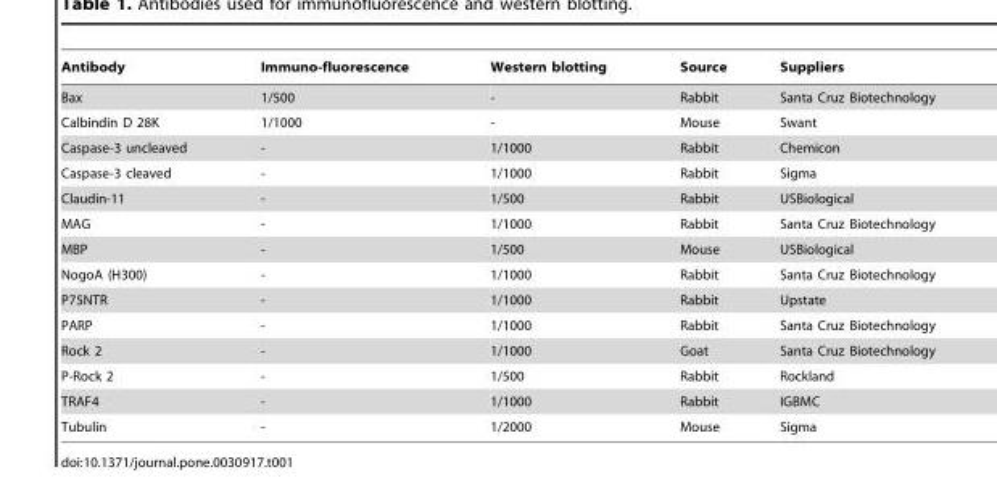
<table><thead><tr><td>Antibody</td><td>Immuno-fluorescence</td><td>Western blotting</td><td>Source</td><td>Suppliers</td></tr></thead><tbody><tr><td>Bax</td><td>1/500</td><td>-</td><td>Rabbit</td><td>Santa Cruz Biotechnology</td></tr><tr><td>Calbindin D 28K</td><td>1/1000</td><td>-</td><td>Mouse</td><td>Swant</td></tr><tr><td>Caspase-3 uncleaved</td><td>-</td><td>1/1000</td><td>Rabbit</td><td>Chemicon</td></tr><tr><td>Caspase-3 cleaved</td><td>-</td><td>1/1000</td><td>Rabbit</td><td>Sigma</td></tr><tr><td>Claudin-11</td><td>-</td><td>1/500</td><td>Rabbit</td><td>USBiological</td></tr><tr><td>MAG</td><td>-</td><td>1/1000</td><td>Rabbit</td><td>Santa Cruz Biotechnology</td></tr><tr><td>MBP</td><td>-</td><td>1/500</td><td>Mouse</td><td>USBiological</td></tr><tr><td>NogoA (H300)</td><td>-</td><td>1/1000</td><td>Rabbit</td><td>Santa Cruz Biotechnology</td></tr><tr><td>P75NTR</td><td>-</td><td>1/1000</td><td>Rabbit</td><td>Upstate</td></tr><tr><td>PARP</td><td>-</td><td>1/1000</td><td>Rabbit</td><td>Santa Cruz Biotechnology</td></tr><tr><td>Rock 2</td><td>-</td><td>1/1000</td><td>Goat</td><td>Santa Cruz Biotechnology</td></tr><tr><td>P-Rock 2</td><td>-</td><td>1/500</td><td>Rabbit</td><td>Rockland</td></tr><tr><td>TRAF4</td><td>-</td><td>1/1000</td><td>Rabbit</td><td>IGBMC</td></tr><tr><td>Tubulin</td><td>-</td><td>1/2000</td><td>Mouse</td><td>Sigma</td></tr></tbody></table>